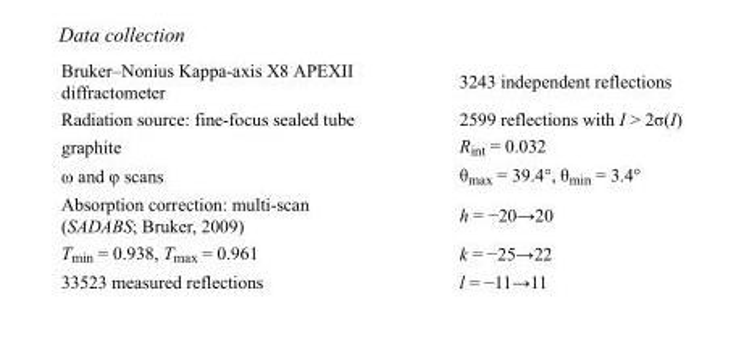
<table><tbody><tr><td>Bruker–Nonius Kappa-axis X8 APEXII diffractometer</td><td>3243 independent reflections</td></tr><tr><td>Radiation source: fine-focus sealed tube</td><td>2599 reflections with I &gt; 2σ(I)</td></tr><tr><td>graphite</td><td>R<sub>int</sub> = 0.032</td></tr><tr><td>ω and φ scans</td><td>θ<sub>max</sub> = 39.4°, θ<sub>min</sub> = 3.4°</td></tr><tr><td>Absorption correction: multi-scan (SADABS; Bruker, 2009)</td><td>h = −20→20</td></tr><tr><td>T<sub>min</sub> = 0.938, T<sub>max</sub> = 0.961</td><td>k = −25→22</td></tr><tr><td>33523 measured reflections</td><td>l = −11→11</td></tr></tbody></table>